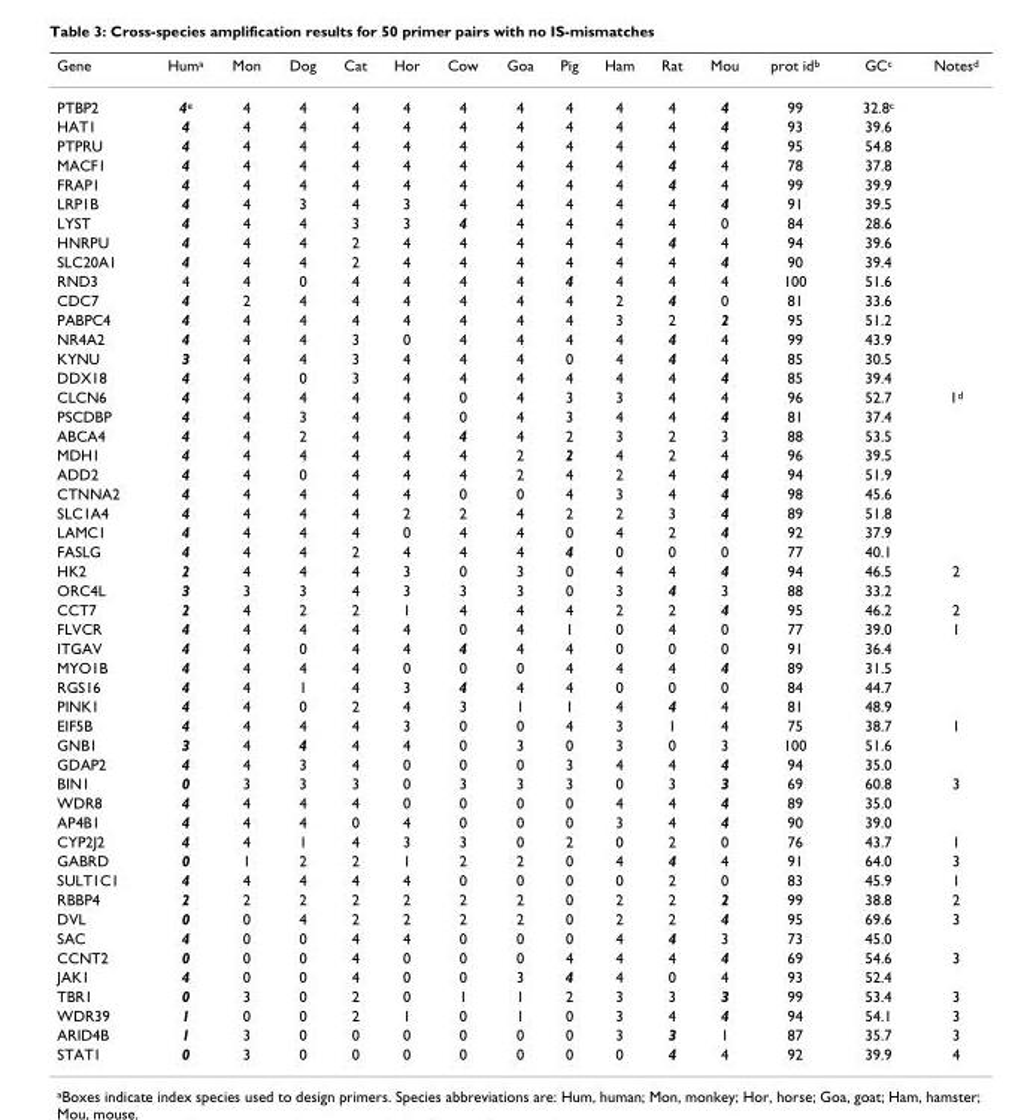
<table><thead><tr><td>Gene</td><td>Huma</td><td>Mon</td><td>Dog</td><td>Cat</td><td>Hor</td><td>Cow</td><td>Goa</td><td>Pig</td><td>Ham</td><td>Rat</td><td>Mou</td><td>prot idb</td><td>GCc</td><td>Notesd</td></tr></thead><tbody><tr><td>PTBP2</td><td>4e</td><td>4</td><td>4</td><td>4</td><td>4</td><td>4</td><td>4</td><td>4</td><td>4</td><td>4</td><td>4</td><td>99</td><td>32.8c</td><td></td></tr><tr><td>HAT1</td><td>4</td><td>4</td><td>4</td><td>4</td><td>4</td><td>4</td><td>4</td><td>4</td><td>4</td><td>4</td><td>4</td><td>93</td><td>39.6</td><td></td></tr><tr><td>PTPRU</td><td>4</td><td>4</td><td>4</td><td>4</td><td>4</td><td>4</td><td>4</td><td>4</td><td>4</td><td>4</td><td>4</td><td>95</td><td>54.8</td><td></td></tr><tr><td>MACF1</td><td>4</td><td>4</td><td>4</td><td>4</td><td>4</td><td>4</td><td>4</td><td>4</td><td>4</td><td>4</td><td>4</td><td>78</td><td>37.8</td><td></td></tr><tr><td>FRAP1</td><td>4</td><td>4</td><td>4</td><td>4</td><td>4</td><td>4</td><td>4</td><td>4</td><td>4</td><td>4</td><td>4</td><td>99</td><td>39.9</td><td></td></tr><tr><td>LRP1B</td><td>4</td><td>4</td><td>3</td><td>4</td><td>3</td><td>4</td><td>4</td><td>4</td><td>4</td><td>4</td><td>4</td><td>91</td><td>39.5</td><td></td></tr><tr><td>LYST</td><td>4</td><td>4</td><td>4</td><td>3</td><td>3</td><td>4</td><td>4</td><td>4</td><td>4</td><td>4</td><td>0</td><td>84</td><td>28.6</td><td></td></tr><tr><td>HNRPU</td><td>4</td><td>4</td><td>4</td><td>2</td><td>4</td><td>4</td><td>4</td><td>4</td><td>4</td><td>4</td><td>4</td><td>94</td><td>39.6</td><td></td></tr><tr><td>SLC20A1</td><td>4</td><td>4</td><td>4</td><td>2</td><td>4</td><td>4</td><td>4</td><td>4</td><td>4</td><td>4</td><td>4</td><td>90</td><td>39.4</td><td></td></tr><tr><td>RND3</td><td>4</td><td>4</td><td>0</td><td>4</td><td>4</td><td>4</td><td>4</td><td>4</td><td>4</td><td>4</td><td>4</td><td>100</td><td>51.6</td><td></td></tr><tr><td>CDC7</td><td>4</td><td>2</td><td>4</td><td>4</td><td>4</td><td>4</td><td>4</td><td>4</td><td>2</td><td>4</td><td>0</td><td>81</td><td>33.6</td><td></td></tr><tr><td>PABPC4</td><td>4</td><td>4</td><td>4</td><td>4</td><td>4</td><td>4</td><td>4</td><td>4</td><td>3</td><td>2</td><td>2</td><td>95</td><td>51.2</td><td></td></tr><tr><td>NR4A2</td><td>4</td><td>4</td><td>4</td><td>3</td><td>0</td><td>4</td><td>4</td><td>4</td><td>4</td><td>4</td><td>4</td><td>99</td><td>43.9</td><td></td></tr><tr><td>KYNU</td><td>3</td><td>4</td><td>4</td><td>3</td><td>4</td><td>4</td><td>4</td><td>0</td><td>4</td><td>4</td><td>4</td><td>85</td><td>30.5</td><td></td></tr><tr><td>DDX18</td><td>4</td><td>4</td><td>0</td><td>3</td><td>4</td><td>4</td><td>4</td><td>4</td><td>4</td><td>4</td><td>4</td><td>85</td><td>39.4</td><td></td></tr><tr><td>CLCN6</td><td>4</td><td>4</td><td>4</td><td>4</td><td>4</td><td>0</td><td>4</td><td>3</td><td>3</td><td>4</td><td>4</td><td>96</td><td>52.7</td><td>1d</td></tr><tr><td>PSCDBP</td><td>4</td><td>4</td><td>3</td><td>4</td><td>4</td><td>0</td><td>4</td><td>3</td><td>4</td><td>4</td><td>4</td><td>81</td><td>37.4</td><td></td></tr><tr><td>ABCA4</td><td>4</td><td>4</td><td>2</td><td>4</td><td>4</td><td>4</td><td>4</td><td>2</td><td>3</td><td>2</td><td>3</td><td>88</td><td>53.5</td><td></td></tr><tr><td>MDH1</td><td>4</td><td>4</td><td>4</td><td>4</td><td>4</td><td>4</td><td>2</td><td>2</td><td>4</td><td>2</td><td>4</td><td>96</td><td>39.5</td><td></td></tr><tr><td>ADD2</td><td>4</td><td>4</td><td>0</td><td>4</td><td>4</td><td>4</td><td>2</td><td>4</td><td>2</td><td>4</td><td>4</td><td>94</td><td>51.9</td><td></td></tr><tr><td>CTNNA2</td><td>4</td><td>4</td><td>4</td><td>4</td><td>4</td><td>0</td><td>0</td><td>4</td><td>3</td><td>4</td><td>4</td><td>98</td><td>45.6</td><td></td></tr><tr><td>SLC1A4</td><td>4</td><td>4</td><td>4</td><td>4</td><td>2</td><td>2</td><td>4</td><td>2</td><td>2</td><td>3</td><td>4</td><td>89</td><td>51.8</td><td></td></tr><tr><td>LAMC1</td><td>4</td><td>4</td><td>4</td><td>4</td><td>0</td><td>4</td><td>4</td><td>0</td><td>4</td><td>2</td><td>4</td><td>92</td><td>37.9</td><td></td></tr><tr><td>FASLG</td><td>4</td><td>4</td><td>4</td><td>2</td><td>4</td><td>4</td><td>4</td><td>4</td><td>0</td><td>0</td><td>0</td><td>77</td><td>40.1</td><td></td></tr><tr><td>HK2</td><td>2</td><td>4</td><td>4</td><td>4</td><td>3</td><td>0</td><td>3</td><td>0</td><td>4</td><td>4</td><td>4</td><td>94</td><td>46.5</td><td>2</td></tr><tr><td>ORC4L</td><td>3</td><td>3</td><td>3</td><td>4</td><td>3</td><td>3</td><td>3</td><td>0</td><td>3</td><td>4</td><td>3</td><td>88</td><td>33.2</td><td></td></tr><tr><td>CCT7</td><td>2</td><td>4</td><td>2</td><td>2</td><td>1</td><td>4</td><td>4</td><td>4</td><td>2</td><td>2</td><td>4</td><td>95</td><td>46.2</td><td>2</td></tr><tr><td>FLVCR</td><td>4</td><td>4</td><td>4</td><td>4</td><td>4</td><td>0</td><td>4</td><td>1</td><td>0</td><td>4</td><td>0</td><td>77</td><td>39.0</td><td>1</td></tr><tr><td>ITGAV</td><td>4</td><td>4</td><td>0</td><td>4</td><td>4</td><td>4</td><td>4</td><td>4</td><td>0</td><td>0</td><td>0</td><td>91</td><td>36.4</td><td></td></tr><tr><td>MYO1B</td><td>4</td><td>4</td><td>4</td><td>4</td><td>0</td><td>0</td><td>0</td><td>4</td><td>4</td><td>4</td><td>4</td><td>89</td><td>31.5</td><td></td></tr><tr><td>RGS16</td><td>4</td><td>4</td><td>1</td><td>4</td><td>3</td><td>4</td><td>4</td><td>4</td><td>0</td><td>0</td><td>0</td><td>84</td><td>44.7</td><td></td></tr><tr><td>PINK1</td><td>4</td><td>4</td><td>0</td><td>2</td><td>4</td><td>3</td><td>1</td><td>1</td><td>4</td><td>4</td><td>4</td><td>81</td><td>48.9</td><td></td></tr><tr><td>EIF5B</td><td>4</td><td>4</td><td>4</td><td>4</td><td>3</td><td>0</td><td>0</td><td>4</td><td>3</td><td>1</td><td>4</td><td>75</td><td>38.7</td><td>1</td></tr><tr><td>GNB1</td><td>3</td><td>4</td><td>4</td><td>4</td><td>4</td><td>0</td><td>3</td><td>0</td><td>3</td><td>0</td><td>3</td><td>100</td><td>51.6</td><td></td></tr><tr><td>GDAP2</td><td>4</td><td>4</td><td>3</td><td>4</td><td>0</td><td>0</td><td>0</td><td>3</td><td>4</td><td>4</td><td>4</td><td>94</td><td>35.0</td><td></td></tr><tr><td>BIN1</td><td>0</td><td>3</td><td>3</td><td>3</td><td>0</td><td>3</td><td>3</td><td>3</td><td>0</td><td>3</td><td>3</td><td>69</td><td>60.8</td><td>3</td></tr><tr><td>WDR8</td><td>4</td><td>4</td><td>4</td><td>4</td><td>0</td><td>0</td><td>0</td><td>0</td><td>4</td><td>4</td><td>4</td><td>89</td><td>35.0</td><td></td></tr><tr><td>AP4B1</td><td>4</td><td>4</td><td>4</td><td>0</td><td>4</td><td>0</td><td>0</td><td>0</td><td>3</td><td>4</td><td>4</td><td>90</td><td>39.0</td><td></td></tr><tr><td>CYP2J2</td><td>4</td><td>4</td><td>1</td><td>4</td><td>3</td><td>3</td><td>0</td><td>2</td><td>0</td><td>2</td><td>0</td><td>76</td><td>43.7</td><td>1</td></tr><tr><td>GABRD</td><td>0</td><td>1</td><td>2</td><td>2</td><td>1</td><td>2</td><td>2</td><td>0</td><td>4</td><td>4</td><td>4</td><td>91</td><td>64.0</td><td>3</td></tr><tr><td>SULT1C1</td><td>4</td><td>4</td><td>4</td><td>4</td><td>4</td><td>0</td><td>0</td><td>0</td><td>0</td><td>2</td><td>0</td><td>83</td><td>45.9</td><td>1</td></tr><tr><td>RBBP4</td><td>2</td><td>2</td><td>2</td><td>2</td><td>2</td><td>2</td><td>2</td><td>0</td><td>2</td><td>2</td><td>2</td><td>99</td><td>38.8</td><td>2</td></tr><tr><td>DVL</td><td>0</td><td>0</td><td>4</td><td>2</td><td>2</td><td>2</td><td>2</td><td>0</td><td>2</td><td>2</td><td>4</td><td>95</td><td>69.6</td><td>3</td></tr><tr><td>SAC</td><td>4</td><td>0</td><td>0</td><td>4</td><td>4</td><td>0</td><td>0</td><td>0</td><td>4</td><td>4</td><td>3</td><td>73</td><td>45.0</td><td></td></tr><tr><td>CCNT2</td><td>0</td><td>0</td><td>0</td><td>4</td><td>0</td><td>0</td><td>0</td><td>4</td><td>4</td><td>4</td><td>4</td><td>69</td><td>54.6</td><td>3</td></tr><tr><td>JAK1</td><td>4</td><td>0</td><td>0</td><td>4</td><td>0</td><td>0</td><td>3</td><td>4</td><td>4</td><td>0</td><td>4</td><td>93</td><td>52.4</td><td></td></tr><tr><td>TBR1</td><td>0</td><td>3</td><td>0</td><td>2</td><td>0</td><td>1</td><td>1</td><td>2</td><td>3</td><td>3</td><td>3</td><td>99</td><td>53.4</td><td>3</td></tr><tr><td>WDR39</td><td>1</td><td>0</td><td>0</td><td>2</td><td>1</td><td>0</td><td>1</td><td>0</td><td>3</td><td>4</td><td>4</td><td>94</td><td>54.1</td><td>3</td></tr><tr><td>ARID4B</td><td>1</td><td>3</td><td>0</td><td>0</td><td>0</td><td>0</td><td>0</td><td>0</td><td>3</td><td>3</td><td>1</td><td>87</td><td>35.7</td><td>3</td></tr><tr><td>STAT1</td><td>0</td><td>3</td><td>0</td><td>0</td><td>0</td><td>0</td><td>0</td><td>0</td><td>0</td><td>4</td><td>4</td><td>92</td><td>39.9</td><td>4</td></tr></tbody></table>